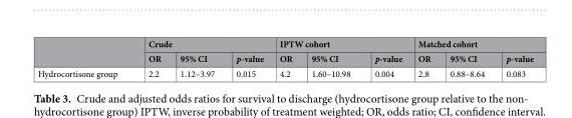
<table><thead><tr><td rowspan="2"></td><td colspan="3">Crude</td><td colspan="3">IPTW cohort</td><td colspan="3">Matched cohort</td></tr><tr><td>OR</td><td>95% CI</td><td>p-value</td><td>OR</td><td>95% CI</td><td>p-value</td><td>OR</td><td>95% CI</td><td>p-value</td></tr></thead><tbody><tr><td>Hydrocortisone group</td><td>2.2</td><td>1.12–3.97</td><td>0.015</td><td>4.2</td><td>1.60–10.98</td><td>0.004</td><td>2.8</td><td>0.88–8.64</td><td>0.083</td></tr></tbody></table>